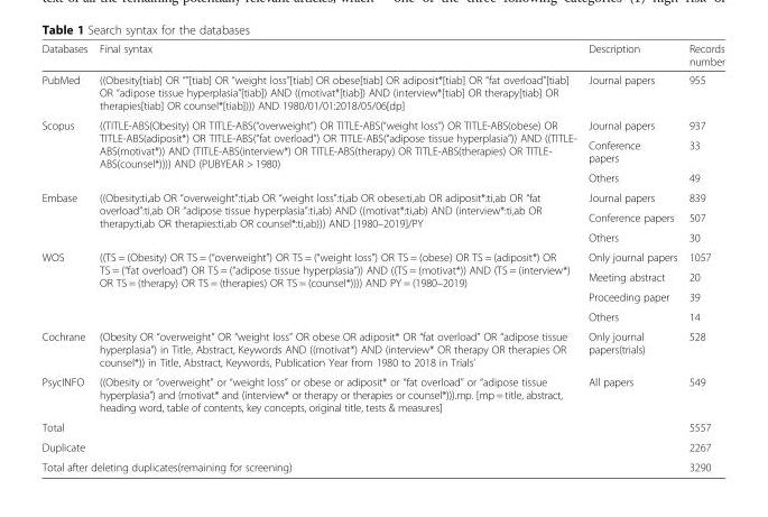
<table><thead><tr><td>Databases</td><td>Final syntax</td><td>Description</td><td>Records number</td></tr></thead><tbody><tr><td>PubMed</td><td>((Obesity[tiab] OR “”[tiab] OR “weight loss”[tiab] OR obese[tiab] OR adiposit*[tiab] OR “fat overload”[tiab] OR “adipose tissue hyperplasia”[tiab]) AND ((motivat*[tiab]) AND (interview*[tiab] OR therapy[tiab] OR therapies[tiab] OR counsel*[tiab]))) AND 1980/01/01:2018/05/06[dp]</td><td>Journal papers</td><td>955</td></tr><tr><td rowspan="3">Scopus</td><td rowspan="3">((TITLE-ABS(Obesity) OR TITLE-ABS(“overweight”) OR TITLE-ABS(“weight loss”) OR TITLE-ABS(obese) OR TITLE-ABS(adiposit*) OR TITLE-ABS(“fat overload”) OR TITLE-ABS(“adipose tissue hyperplasia”)) AND ((TITLE- ABS(motivat*)) AND (TITLE-ABS(interview*) OR TITLE-ABS(therapy) OR TITLE-ABS(therapies) OR TITLE- ABS(counsel*)))) AND (PUBYEAR &gt; 1980)</td><td>Journal papers</td><td>937</td></tr><tr><td>Conference papers</td><td>33</td></tr><tr><td>Others</td><td>49</td></tr><tr><td rowspan="3">Embase</td><td rowspan="3">((Obesity:ti,ab OR “overweight”:ti,ab OR “weight loss”:ti,ab OR obese:ti,ab OR adiposit*:ti,ab OR “fat overload”:ti,ab OR “adipose tissue hyperplasia”:ti,ab) AND ((motivat*:ti,ab) AND (interview*:ti,ab OR therapy:ti,ab OR therapies:ti,ab OR counsel*:ti,ab))) AND [1980–2019]/PY</td><td>Journal papers</td><td>839</td></tr><tr><td>Conference papers</td><td>507</td></tr><tr><td>Others</td><td>30</td></tr><tr><td rowspan="4">WOS</td><td rowspan="4">((TS = (Obesity) OR TS = (“overweight”) OR TS = (“weight loss”) OR TS = (obese) OR TS = (adiposit*) OR TS = (“fat overload”) OR TS = (“adipose tissue hyperplasia”)) AND ((TS = (motivat*)) AND (TS = (interview*) OR TS = (therapy) OR TS = (therapies) OR TS = (counsel*)))) AND PY = (1980–2019)</td><td>Only journal papers</td><td>1057</td></tr><tr><td>Meeting abstract</td><td>20</td></tr><tr><td>Proceeding paper</td><td>39</td></tr><tr><td>Others</td><td>14</td></tr><tr><td>Cochrane</td><td>(Obesity OR “overweight” OR “weight loss” OR obese OR adiposit* OR “fat overload” OR “adipose tissue hyperplasia”) in Title, Abstract, Keywords AND ((motivat*) AND (interview* OR therapy OR therapies OR counsel*)) in Title, Abstract, Keywords, Publication Year from 1980 to 2018 in Trials’</td><td>Only journal papers(trials)</td><td>528</td></tr><tr><td>PsycINFO</td><td>((Obesity or “overweight” or “weight loss” or obese or adiposit* or “fat overload” or “adipose tissue hyperplasia”) and (motivat* and (interview* or therapy or therapies or counsel*))).mp. [mp = title, abstract, heading word, table of contents, key concepts, original title, tests &amp; measures]</td><td>All papers</td><td>549</td></tr><tr><td colspan="3">Total</td><td>5557</td></tr><tr><td colspan="3">Duplicate</td><td>2267</td></tr><tr><td colspan="3">Total after deleting duplicates(remaining for screening)</td><td>3290</td></tr></tbody></table>